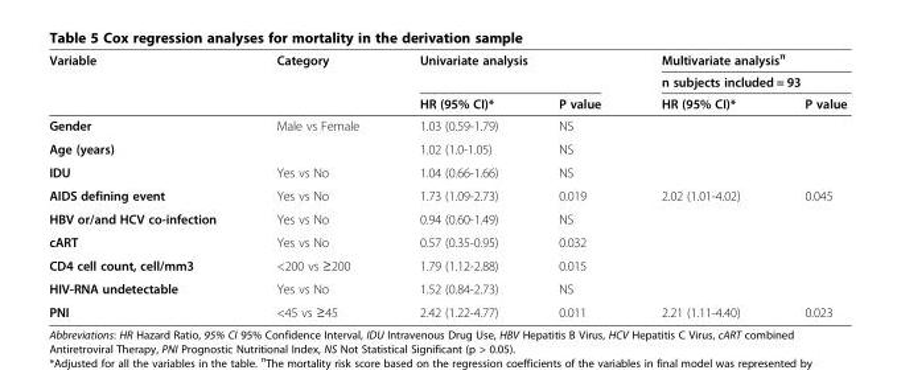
<table><thead><tr><td rowspan="3">Variable</td><td rowspan="3">Category</td><td rowspan="2" colspan="2">Univariate analysis</td><td rowspan="2" colspan="2">Multivariate analysis<sup>π</sup> n subjects included = 93</td></tr><tr></tr><tr><td>HR (95% CI)*</td><td>P value</td><td>HR (95% CI)*</td><td>P value</td></tr></thead><tbody><tr><td>Gender</td><td>Male vs Female</td><td>1.03 (0.59-1.79)</td><td>NS</td><td></td><td></td></tr><tr><td>Age (years)</td><td></td><td>1.02 (1.0-1.05)</td><td>NS</td><td></td><td></td></tr><tr><td>IDU</td><td>Yes vs No</td><td>1.04 (0.66-1.66)</td><td>NS</td><td></td><td></td></tr><tr><td>AIDS defining event</td><td>Yes vs No</td><td>1.73 (1.09-2.73)</td><td>0.019</td><td>2.02 (1.01-4.02)</td><td>0.045</td></tr><tr><td>HBV or/and HCV co-infection</td><td>Yes vs No</td><td>0.94 (0.60-1.49)</td><td>NS</td><td></td><td></td></tr><tr><td>cART</td><td>Yes vs No</td><td>0.57 (0.35-0.95)</td><td>0.032</td><td></td><td></td></tr><tr><td>CD4 cell count, cell/mm3</td><td>&lt;200 vs ≥200</td><td>1.79 (1.12-2.88)</td><td>0.015</td><td></td><td></td></tr><tr><td>HIV-RNA undetectable</td><td>Yes vs No</td><td>1.52 (0.84-2.73)</td><td>NS</td><td></td><td></td></tr><tr><td>PNI</td><td>&lt;45 vs ≥45</td><td>2.42 (1.22-4.77)</td><td>0.011</td><td>2.21 (1.11-4.40)</td><td>0.023</td></tr></tbody></table>